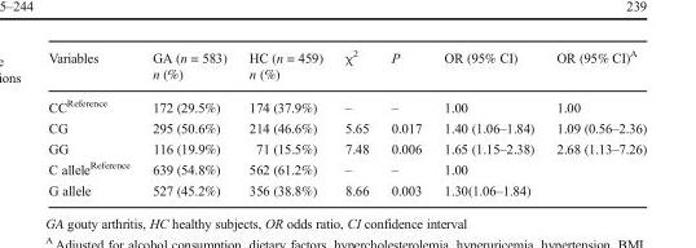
<table><thead><tr><td rowspan="2">Variables</td><td rowspan="2">GA (n = 583) n (%)</td><td rowspan="2">HC (n = 459) n (%)</td><td rowspan="2">χ<sup>2</sup></td><td rowspan="2">P</td><td rowspan="2">OR (95% CI)</td><td rowspan="2">OR (95% CI)<sup>A</sup></td></tr><tr></tr></thead><tbody><tr><td>CC<sup>Reference</sup></td><td>172 (29.5%)</td><td>174 (37.9%)</td><td>–</td><td>–</td><td>1.00</td><td>1.00</td></tr><tr><td>CG</td><td>295 (50.6%)</td><td>214 (46.6%)</td><td>5.65</td><td>0.017</td><td>1.40 (1.06–1.84)</td><td>1.09 (0.56–2.36)</td></tr><tr><td>GG</td><td>116 (19.9%)</td><td>71 (15.5%)</td><td>7.48</td><td>0.006</td><td>1.65 (1.15–2.38)</td><td>2.68 (1.13–7.26)</td></tr><tr><td>C allele<sup>Reference</sup></td><td>639 (54.8%)</td><td>562 (61.2%)</td><td>–</td><td>–</td><td>1.00</td><td></td></tr><tr><td>G allele</td><td>527 (45.2%)</td><td>356 (38.8%)</td><td>8.66</td><td>0.003</td><td>1.30(1.06–1.84)</td><td></td></tr></tbody></table>